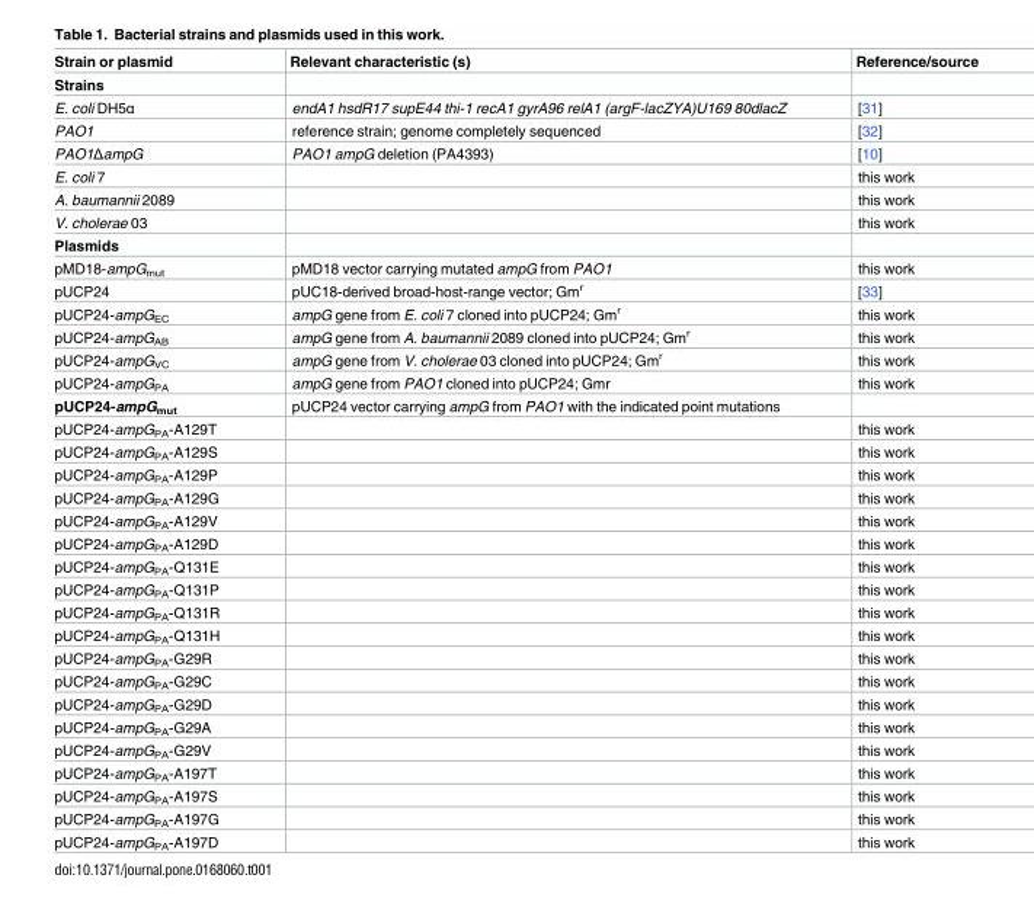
<table><thead><tr><td>Strain or plasmid</td><td>Relevant characteristic (s)</td><td>Reference/source</td></tr></thead><tbody><tr><td colspan="3">Strains</td></tr><tr><td>E. coli DH5α</td><td>endA1 hsdR17 supE44 thi-1 recA1 gyrA96 relA1 (argF-lacZYA)U169 80dlacZ</td><td>[31]</td></tr><tr><td>PAO1</td><td>reference strain; genome completely sequenced</td><td>[32]</td></tr><tr><td>PAO1ΔampG</td><td>PAO1 ampG deletion (PA4393)</td><td>[10]</td></tr><tr><td>E. coli 7</td><td></td><td>this work</td></tr><tr><td>A. baumannii 2089</td><td></td><td>this work</td></tr><tr><td>V. cholerae 03</td><td></td><td>this work</td></tr><tr><td colspan="3">Plasmids</td></tr><tr><td>pMD18-ampG<sub>mut</sub></td><td>pMD18 vector carrying mutated ampG from PAO1</td><td>this work</td></tr><tr><td>pUCP24</td><td>pUC18-derived broad-host-range vector; Gm<sup>r</sup></td><td>[33]</td></tr><tr><td>pUCP24-ampG<sub>EC</sub></td><td>ampG gene from E. coli 7 cloned into pUCP24; Gm<sup>r</sup></td><td>this work</td></tr><tr><td>pUCP24-ampG<sub>AB</sub></td><td>ampG gene from A. baumannii 2089 cloned into pUCP24; Gm<sup>r</sup></td><td>this work</td></tr><tr><td>pUCP24-ampG<sub>VC</sub></td><td>ampG gene from V. cholerae 03 cloned into pUCP24; Gm<sup>r</sup></td><td>this work</td></tr><tr><td>pUCP24-ampG<sub>PA</sub></td><td>ampG gene from PAO1 cloned into pUCP24; Gmr</td><td>this work</td></tr><tr><td>pUCP24-ampG<sub>mut</sub></td><td>pUCP24 vector carrying ampG from PAO1 with the indicated point mutations</td><td></td></tr><tr><td>pUCP24-ampG<sub>PA</sub>-A129T</td><td></td><td>this work</td></tr><tr><td>pUCP24-ampG<sub>PA</sub>-A129S</td><td></td><td>this work</td></tr><tr><td>pUCP24-ampG<sub>PA</sub>-A129P</td><td></td><td>this work</td></tr><tr><td>pUCP24-ampG<sub>PA</sub>-A129G</td><td></td><td>this work</td></tr><tr><td>pUCP24-ampG<sub>PA</sub>-A129V</td><td></td><td>this work</td></tr><tr><td>pUCP24-ampG<sub>PA</sub>-A129D</td><td></td><td>this work</td></tr><tr><td>pUCP24-ampG<sub>PA</sub>-Q131E</td><td></td><td>this work</td></tr><tr><td>pUCP24-ampG<sub>PA</sub>-Q131P</td><td></td><td>this work</td></tr><tr><td>pUCP24-ampG<sub>PA</sub>-Q131R</td><td></td><td>this work</td></tr><tr><td>pUCP24-ampG<sub>PA</sub>-Q131H</td><td></td><td>this work</td></tr><tr><td>pUCP24-ampG<sub>PA</sub>-G29R</td><td></td><td>this work</td></tr><tr><td>pUCP24-ampG<sub>PA</sub>-G29C</td><td></td><td>this work</td></tr><tr><td>pUCP24-ampG<sub>PA</sub>-G29D</td><td></td><td>this work</td></tr><tr><td>pUCP24-ampG<sub>PA</sub>-G29A</td><td></td><td>this work</td></tr><tr><td>pUCP24-ampG<sub>PA</sub>-G29V</td><td></td><td>this work</td></tr><tr><td>pUCP24-ampG<sub>PA</sub>-A197T</td><td></td><td>this work</td></tr><tr><td>pUCP24-ampG<sub>PA</sub>-A197S</td><td></td><td>this work</td></tr><tr><td>pUCP24-ampG<sub>PA</sub>-A197G</td><td></td><td>this work</td></tr><tr><td>pUCP24-ampG<sub>PA</sub>-A197D</td><td></td><td>this work</td></tr></tbody></table>